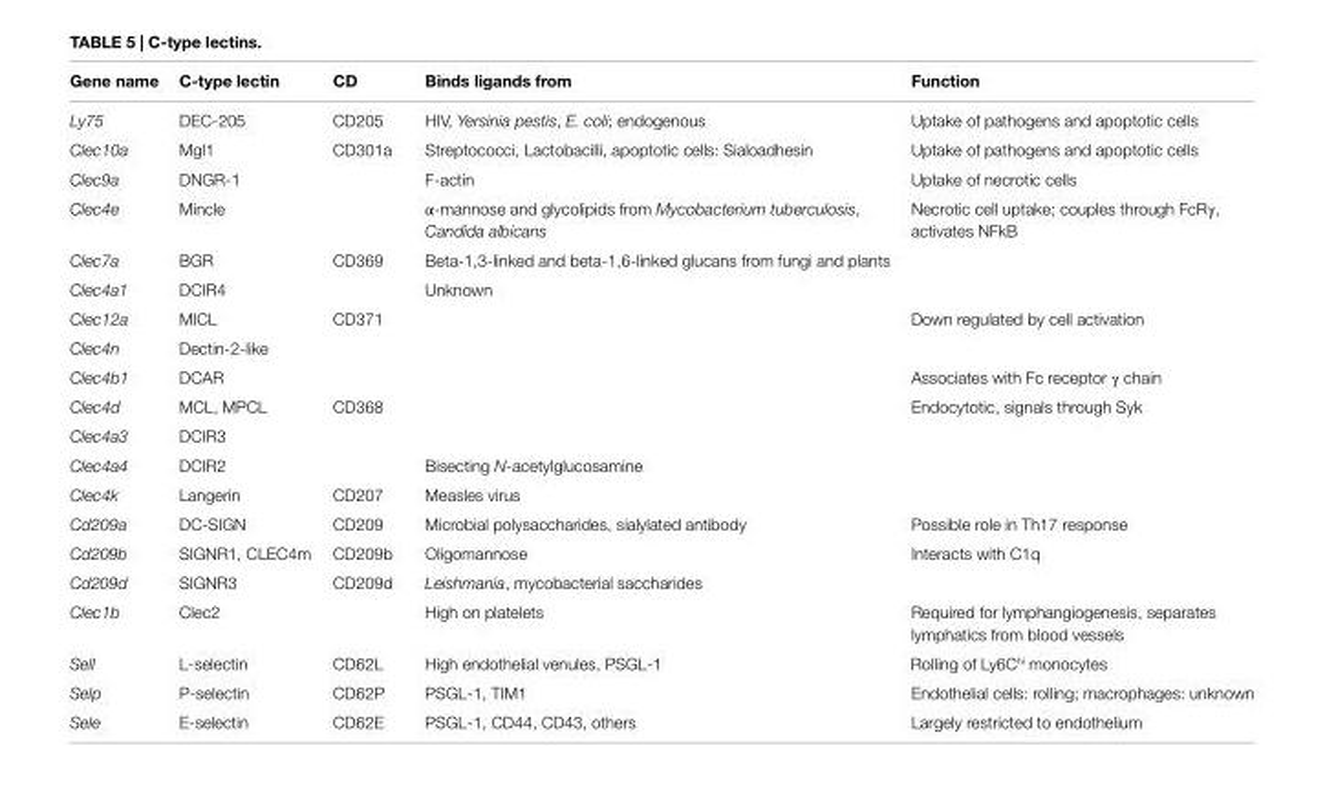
<table><thead><tr><td>Gene name</td><td>C-type lectin</td><td>CD</td><td>Binds ligands from</td><td>Function</td></tr></thead><tbody><tr><td>Ly75</td><td>DEC-205</td><td>CD205</td><td>HIV, Yersinia pestis, E. coli; endogenous</td><td>Uptake of pathogens and apoptotic cells</td></tr><tr><td>Clec10a</td><td>Mgl1</td><td>CD301a</td><td>Streptococci, Lactobacilli, apoptotic cells: Sialoadhesin</td><td>Uptake of pathogens and apoptotic cells</td></tr><tr><td>Clec9a</td><td>DNGR-1</td><td></td><td>F-actin</td><td>Uptake of necrotic cells</td></tr><tr><td>Clec4e</td><td>Mincle</td><td></td><td>α-mannose and glycolipids from Mycobacterium tuberculosis, Candida albicans</td><td>Necrotic cell uptake; couples through FcRγ, activates NFkB</td></tr><tr><td>Clec7a</td><td>BGR</td><td>CD369</td><td>Beta-1,3-linked and beta-1,6-linked glucans from fungi and plants</td><td></td></tr><tr><td>Clec4a1</td><td>DCIR4</td><td></td><td>Unknown</td><td></td></tr><tr><td>Clec12a</td><td>MICL</td><td>CD371</td><td></td><td>Down regulated by cell activation</td></tr><tr><td>Clec4n</td><td>Dectin-2-like</td><td></td><td></td><td></td></tr><tr><td>Clec4b1</td><td>DCAR</td><td></td><td></td><td>Associates with Fc receptor γ chain</td></tr><tr><td>Clec4d</td><td>MCL, MPCL</td><td>CD368</td><td></td><td>Endocytotic, signals through Syk</td></tr><tr><td>Clec4a3</td><td>DCIR3</td><td></td><td></td><td></td></tr><tr><td>Clec4a4</td><td>DCIR2</td><td></td><td>Bisecting N-acetylglucosamine</td><td></td></tr><tr><td>Clec4k</td><td>Langerin</td><td>CD207</td><td>Measles virus</td><td></td></tr><tr><td>Cd209a</td><td>DC-SIGN</td><td>CD209</td><td>Microbial polysaccharides, sialylated antibody</td><td>Possible role in Th17 response</td></tr><tr><td>Cd209b</td><td>SIGNR1, CLEC4m</td><td>CD209b</td><td>Oligomannose</td><td>Interacts with C1q</td></tr><tr><td>Cd209d</td><td>SIGNR3</td><td>CD209d</td><td>Leishmania, mycobacterial saccharides</td><td></td></tr><tr><td>Clec1b</td><td>Clec2</td><td></td><td>High on platelets</td><td>Required for lymphangiogenesis, separates lymphatics from blood vessels</td></tr><tr><td>Sell</td><td>L-selectin</td><td>CD62L</td><td>High endothelial venules, PSGL-1</td><td>Rolling of Ly6C<sup>hi</sup> monocytes</td></tr><tr><td>Selp</td><td>P-selectin</td><td>CD62P</td><td>PSGL-1, TIM1</td><td>Endothelial cells: rolling; macrophages: unknown</td></tr><tr><td>Sele</td><td>E-selectin</td><td>CD62E</td><td>PSGL-1, CD44, CD43, others</td><td>Largely restricted to endothelium</td></tr></tbody></table>